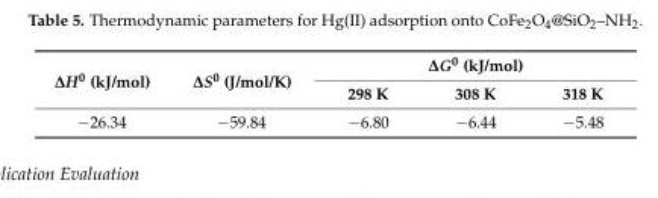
<table><thead><tr><td rowspan="2">∆H0 (kJ/mol)</td><td rowspan="2">∆S0 (J/mol/K)</td><td colspan="3">∆G0 (kJ/mol)</td></tr><tr><td>298 K</td><td>308 K</td><td>318 K</td></tr></thead><tbody><tr><td>−26.34</td><td>−59.84</td><td>−6.80</td><td>−6.44</td><td>−5.48</td></tr></tbody></table>